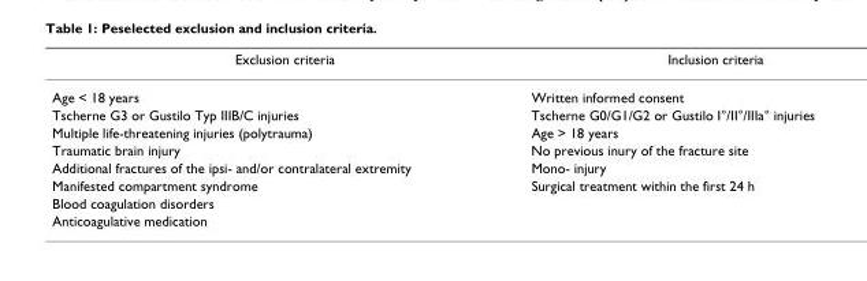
<table><thead><tr><td>Exclusion criteria</td><td>Inclusion criteria</td></tr></thead><tbody><tr><td>Age &lt; 18 years</td><td>Written informed consent</td></tr><tr><td>Tscherne G3 or Gustilo Typ IIIB/C injuries</td><td>Tscherne G0/G1/G2 or Gustilo I°/II°/IIIa° injuries</td></tr><tr><td>Multiple life-threatening injuries (polytrauma)</td><td>Age &gt; 18 years</td></tr><tr><td>Traumatic brain injury</td><td>No previous inury of the fracture site</td></tr><tr><td>Additional fractures of the ipsi- and/or contralateral extremity</td><td>Mono- injury</td></tr><tr><td>Manifested compartment syndrome</td><td>Surgical treatment within the first 24 h</td></tr><tr><td colspan="2">Blood coagulation disorders</td></tr><tr><td>Anticoagulative medication</td><td></td></tr></tbody></table>